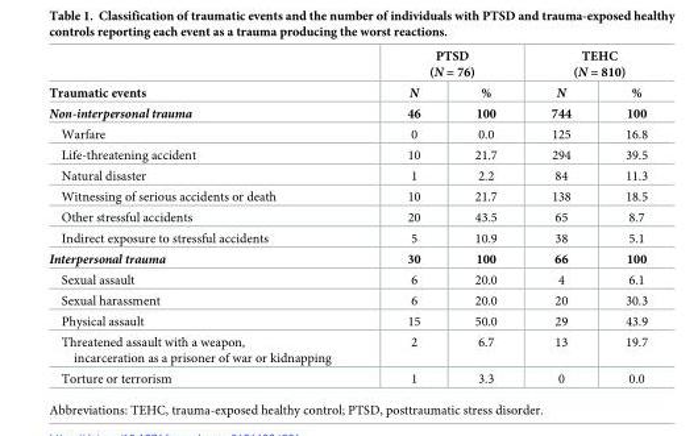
<table><thead><tr><td rowspan="2">Traumatic events</td><td colspan="2">PTSD (N = 76)</td><td colspan="2">TEHC (N = 810)</td></tr><tr><td>N</td><td>%</td><td>N</td><td>%</td></tr></thead><tbody><tr><td>Non-interpersonal trauma</td><td>46</td><td>100</td><td>744</td><td>100</td></tr><tr><td>Warfare</td><td>0</td><td>0.0</td><td>125</td><td>16.8</td></tr><tr><td>Life-threatening accident</td><td>10</td><td>21.7</td><td>294</td><td>39.5</td></tr><tr><td>Natural disaster</td><td>1</td><td>2.2</td><td>84</td><td>11.3</td></tr><tr><td>Witnessing of serious accidents or death</td><td>10</td><td>21.7</td><td>138</td><td>18.5</td></tr><tr><td>Other stressful accidents</td><td>20</td><td>43.5</td><td>65</td><td>8.7</td></tr><tr><td>Indirect exposure to stressful accidents</td><td>5</td><td>10.9</td><td>38</td><td>5.1</td></tr><tr><td>Interpersonal trauma</td><td>30</td><td>100</td><td>66</td><td>100</td></tr><tr><td>Sexual assault</td><td>6</td><td>20.0</td><td>4</td><td>6.1</td></tr><tr><td>Sexual harassment</td><td>6</td><td>20.0</td><td>20</td><td>30.3</td></tr><tr><td>Physical assault</td><td>15</td><td>50.0</td><td>29</td><td>43.9</td></tr><tr><td>Threatened assault with a weapon, incarceration as a prisoner of war or kidnapping</td><td>2</td><td>6.7</td><td>13</td><td>19.7</td></tr><tr><td>Torture or terrorism</td><td>1</td><td>3.3</td><td>0</td><td>0.0</td></tr></tbody></table>